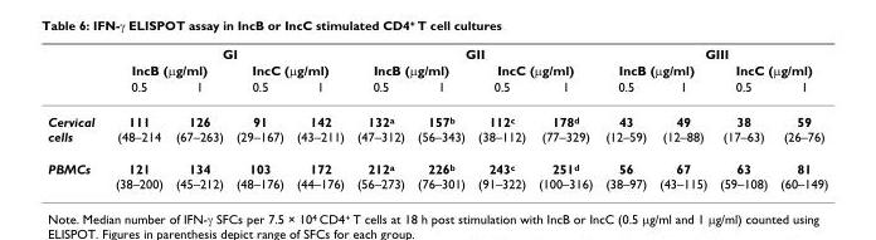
<table><thead><tr><td rowspan="3"></td><td colspan="4">GI</td><td colspan="4">GII</td><td colspan="4">GIII</td></tr><tr><td colspan="2">IncB (μg/ml)</td><td colspan="2">IncC (μg/ml)</td><td colspan="2">IncB (μg/ml)</td><td colspan="2">IncC (μg/ml)</td><td colspan="2">IncB (μg/ml)</td><td colspan="2">IncC (μg/ml)</td></tr><tr><td>0.5</td><td>1</td><td>0.5</td><td>1</td><td>0.5</td><td>1</td><td>0.5</td><td>1</td><td>0.5</td><td>1</td><td>0.5</td><td>1</td></tr></thead><tbody><tr><td>Cervical cells</td><td>111 (48–214</td><td>126 (67–263)</td><td>91 (29–167)</td><td>142 (43–211)</td><td>132<sup>a</sup> (47–312)</td><td>157<sup>b</sup> (56–343)</td><td>112<sup>c</sup> (38–112)</td><td>178<sup>d</sup> (77–329)</td><td>43 (12–59)</td><td>49 (12–88)</td><td>38 (17–63)</td><td>59 (26–76)</td></tr><tr><td>PBMCs</td><td>121 (38–200)</td><td>134 (45–212)</td><td>103 (48–176)</td><td>172 (44–176)</td><td>212<sup>a</sup> (56–273)</td><td>226<sup>b</sup> (76–301)</td><td>243<sup>c</sup> (91–322)</td><td>251<sup>d</sup> (100–316)</td><td>56 (38–97)</td><td>67 (43–115)</td><td>63 (59–108)</td><td>81 (60–149)</td></tr></tbody></table>